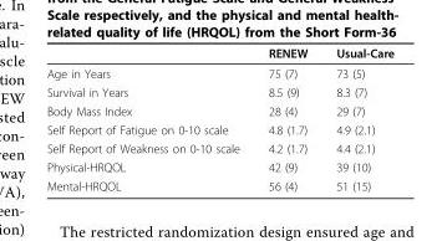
<table><thead><tr><td></td><td>RENEW</td><td>Usual-Care</td></tr></thead><tbody><tr><td>Age in Years</td><td>75 (7)</td><td>73 (5)</td></tr><tr><td>Survival in Years</td><td>8.5 (9)</td><td>8.3 (7)</td></tr><tr><td>Body Mass Index</td><td>28 (4)</td><td>29 (7)</td></tr><tr><td>Self Report of Fatigue on 0-10 scale</td><td>4.8 (1.7)</td><td>4.9 (2.1)</td></tr><tr><td>Self Report of Weakness on 0-10 scale</td><td>4.2 (1.7)</td><td>4.4 (2.1)</td></tr><tr><td>Physical-HRQOL</td><td>42 (9)</td><td>39 (10)</td></tr><tr><td>Mental-HRQOL</td><td>56 (4)</td><td>51 (15)</td></tr></tbody></table>